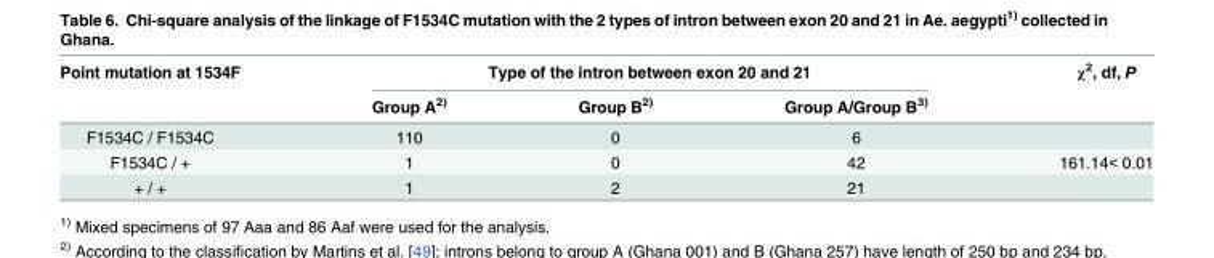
<table><thead><tr><td rowspan="2">Point mutation at 1534F</td><td colspan="3">Type of the intron between exon 20 and 21</td><td rowspan="2">χ<sup>2</sup>, df, P</td></tr><tr><td>Group A<sup>2)</sup></td><td>Group B<sup>2)</sup></td><td>Group A/Group B<sup>3)</sup></td></tr></thead><tbody><tr><td>F1534C / F1534C</td><td>110</td><td>0</td><td>6</td><td></td></tr><tr><td>F1534C / +</td><td>1</td><td>0</td><td>42</td><td>161.14&lt; 0.01</td></tr><tr><td>+ / +</td><td>1</td><td>2</td><td>21</td><td></td></tr></tbody></table>